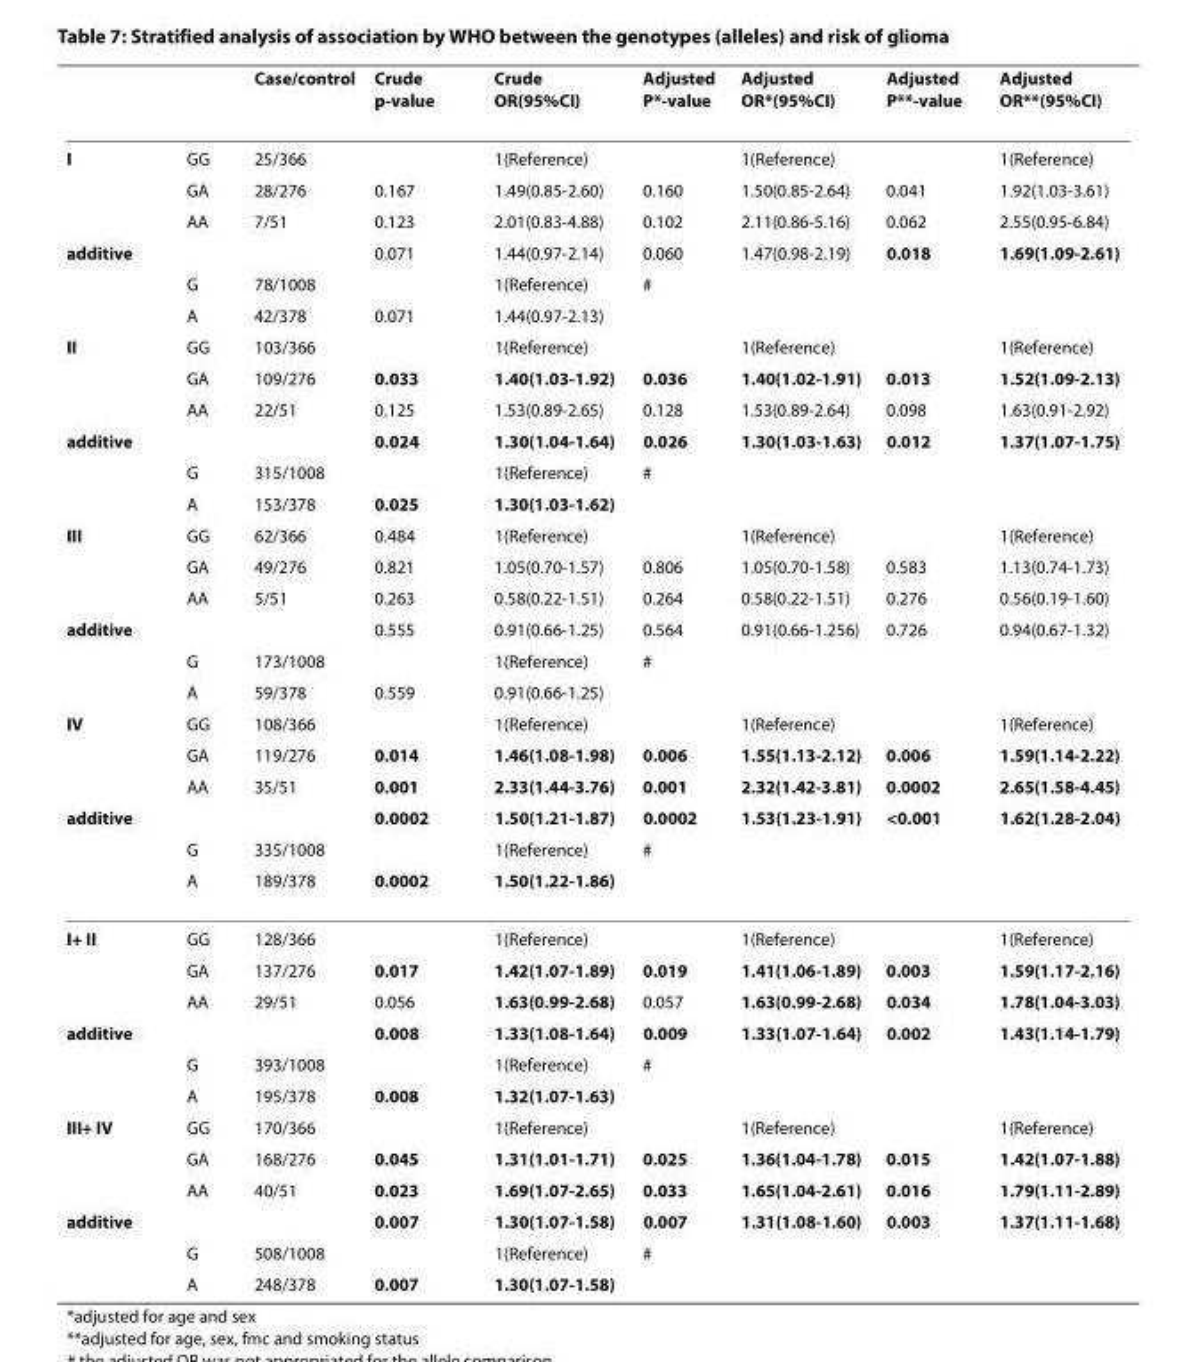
<table><thead><tr><td></td><td></td><td>Case/control</td><td>Crude p-value</td><td>Crude OR(95%CI)</td><td>Adjusted P*-value</td><td>Adjusted OR*(95%CI)</td><td>Adjusted P**-value</td><td>Adjusted OR**(95%CI)</td></tr></thead><tbody><tr><td rowspan="3">I</td><td>GG</td><td>25/366</td><td></td><td>1(Reference)</td><td></td><td>1(Reference)</td><td></td><td>1(Reference)</td></tr><tr><td>GA</td><td>28/276</td><td>0.167</td><td>1.49(0.85-2.60)</td><td>0.160</td><td>1.50(0.85-2.64)</td><td>0.041</td><td>1.92(1.03-3.61)</td></tr><tr><td>AA</td><td>7/51</td><td>0.123</td><td>2.01(0.83-4.88)</td><td>0.102</td><td>2.11(0.86-5.16)</td><td>0.062</td><td>2.55(0.95-6.84)</td></tr><tr><td rowspan="3">additive</td><td></td><td></td><td>0.071</td><td>1.44(0.97-2.14)</td><td>0.060</td><td>1.47(0.98-2.19)</td><td>0.018</td><td>1.69(1.09-2.61)</td></tr><tr><td>G</td><td>78/1008</td><td></td><td>1(Reference)</td><td colspan="4">#</td></tr><tr><td>A</td><td>42/378</td><td>0.071</td><td>1.44(0.97-2.13)</td><td></td><td></td><td></td><td></td></tr><tr><td rowspan="3">II</td><td>GG</td><td>103/366</td><td></td><td>1(Reference)</td><td></td><td>1(Reference)</td><td></td><td>1(Reference)</td></tr><tr><td>GA</td><td>109/276</td><td>0.033</td><td>1.40(1.03-1.92)</td><td>0.036</td><td>1.40(1.02-1.91)</td><td>0.013</td><td>1.52(1.09-2.13)</td></tr><tr><td>AA</td><td>22/51</td><td>0.125</td><td>1.53(0.89-2.65)</td><td>0.128</td><td>1.53(0.89-2.64)</td><td>0.098</td><td>1.63(0.91-2.92)</td></tr><tr><td rowspan="3">additive</td><td></td><td></td><td>0.024</td><td>1.30(1.04-1.64)</td><td>0.026</td><td>1.30(1.03-1.63)</td><td>0.012</td><td>1.37(1.07-1.75)</td></tr><tr><td>G</td><td>315/1008</td><td></td><td>1(Reference)</td><td colspan="4">#</td></tr><tr><td>A</td><td>153/378</td><td>0.025</td><td>1.30(1.03-1.62)</td><td></td><td></td><td></td><td></td></tr><tr><td rowspan="3">III</td><td>GG</td><td>62/366</td><td>0.484</td><td>1(Reference)</td><td></td><td>1(Reference)</td><td></td><td>1(Reference)</td></tr><tr><td>GA</td><td>49/276</td><td>0.821</td><td>1.05(0.70-1.57)</td><td>0.806</td><td>1.05(0.70-1.58)</td><td>0.583</td><td>1.13(0.74-1.73)</td></tr><tr><td>AA</td><td>5/51</td><td>0.263</td><td>0.58(0.22-1.51)</td><td>0.264</td><td>0.58(0.22-1.51)</td><td>0.276</td><td>0.56(0.19-1.60)</td></tr><tr><td rowspan="3">additive</td><td></td><td></td><td>0.555</td><td>0.91(0.66-1.25)</td><td>0.564</td><td>0.91(0.66-1.256)</td><td>0.726</td><td>0.94(0.67-1.32)</td></tr><tr><td>G</td><td>173/1008</td><td></td><td>1(Reference)</td><td colspan="4">#</td></tr><tr><td>A</td><td>59/378</td><td>0.559</td><td>0.91(0.66-1.25)</td><td></td><td></td><td></td><td></td></tr><tr><td rowspan="3">IV</td><td>GG</td><td>108/366</td><td></td><td>1(Reference)</td><td></td><td>1(Reference)</td><td></td><td>1(Reference)</td></tr><tr><td>GA</td><td>119/276</td><td>0.014</td><td>1.46(1.08-1.98)</td><td>0.006</td><td>1.55(1.13-2.12)</td><td>0.006</td><td>1.59(1.14-2.22)</td></tr><tr><td>AA</td><td>35/51</td><td>0.001</td><td>2.33(1.44-3.76)</td><td>0.001</td><td>2.32(1.42-3.81)</td><td>0.0002</td><td>2.65(1.58-4.45)</td></tr><tr><td rowspan="3">additive</td><td></td><td></td><td>0.0002</td><td>1.50(1.21-1.87)</td><td>0.0002</td><td>1.53(1.23-1.91)</td><td>&lt;0.001</td><td>1.62(1.28-2.04)</td></tr><tr><td>G</td><td>335/1008</td><td></td><td>1(Reference)</td><td colspan="4">#</td></tr><tr><td>A</td><td>189/378</td><td>0.0002</td><td>1.50(1.22-1.86)</td><td></td><td></td><td></td><td></td></tr><tr><td rowspan="3">I+ II</td><td>GG</td><td>128/366</td><td></td><td>1(Reference)</td><td></td><td>1(Reference)</td><td></td><td>1(Reference)</td></tr><tr><td>GA</td><td>137/276</td><td>0.017</td><td>1.42(1.07-1.89)</td><td>0.019</td><td>1.41(1.06-1.89)</td><td>0.003</td><td>1.59(1.17-2.16)</td></tr><tr><td>AA</td><td>29/51</td><td>0.056</td><td>1.63(0.99-2.68)</td><td>0.057</td><td>1.63(0.99-2.68)</td><td>0.034</td><td>1.78(1.04-3.03)</td></tr><tr><td rowspan="3">additive</td><td></td><td></td><td>0.008</td><td>1.33(1.08-1.64)</td><td>0.009</td><td>1.33(1.07-1.64)</td><td>0.002</td><td>1.43(1.14-1.79)</td></tr><tr><td>G</td><td>393/1008</td><td></td><td>1(Reference)</td><td colspan="4">#</td></tr><tr><td>A</td><td>195/378</td><td>0.008</td><td>1.32(1.07-1.63)</td><td></td><td></td><td></td><td></td></tr><tr><td rowspan="3">III+ IV</td><td>GG</td><td>170/366</td><td></td><td>1(Reference)</td><td></td><td>1(Reference)</td><td></td><td>1(Reference)</td></tr><tr><td>GA</td><td>168/276</td><td>0.045</td><td>1.31(1.01-1.71)</td><td>0.025</td><td>1.36(1.04-1.78)</td><td>0.015</td><td>1.42(1.07-1.88)</td></tr><tr><td>AA</td><td>40/51</td><td>0.023</td><td>1.69(1.07-2.65)</td><td>0.033</td><td>1.65(1.04-2.61)</td><td>0.016</td><td>1.79(1.11-2.89)</td></tr><tr><td rowspan="3">additive</td><td></td><td></td><td>0.007</td><td>1.30(1.07-1.58)</td><td>0.007</td><td>1.31(1.08-1.60)</td><td>0.003</td><td>1.37(1.11-1.68)</td></tr><tr><td>G</td><td>508/1008</td><td></td><td>1(Reference)</td><td colspan="4">#</td></tr><tr><td>A</td><td>248/378</td><td>0.007</td><td>1.30(1.07-1.58)</td><td></td><td></td><td></td><td></td></tr></tbody></table>